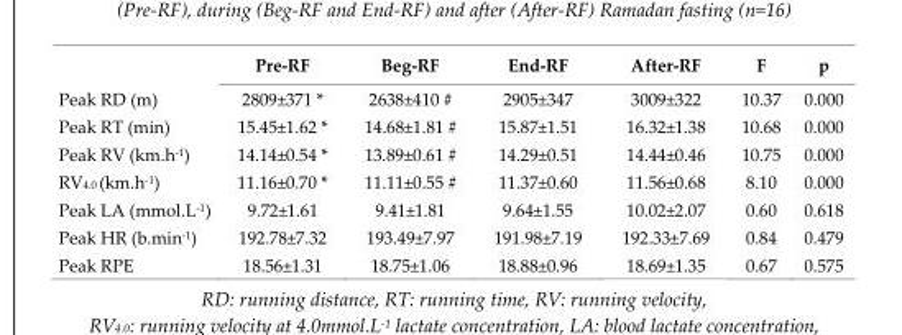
<table><thead><tr><td></td><td>Pre-RF</td><td>Beg-RF</td><td>End-RF</td><td>After-RF</td><td>F</td><td>p</td></tr></thead><tbody><tr><td>Peak RD (m)</td><td>2809±371 *</td><td>2638±410 #</td><td>2905±347</td><td>3009±322</td><td>10.37</td><td>0.000</td></tr><tr><td>Peak RT (min)</td><td>15.45±1.62 *</td><td>14.68±1.81 #</td><td>15.87±1.51</td><td>16.32±1.38</td><td>10.68</td><td>0.000</td></tr><tr><td>Peak RV (km.h<sup>-1</sup>)</td><td>14.14±0.54 *</td><td>13.89±0.61 #</td><td>14.29±0.51</td><td>14.44±0.46</td><td>10.75</td><td>0.000</td></tr><tr><td>RV4.0 (km.h<sup>-1</sup>)</td><td>11.16±0.70 *</td><td>11.11±0.55 #</td><td>11.37±0.60</td><td>11.56±0.68</td><td>8.10</td><td>0.000</td></tr><tr><td>Peak LA (mmol.L<sup>-1</sup>)</td><td>9.72±1.61</td><td>9.41±1.81</td><td>9.64±1.55</td><td>10.02±2.07</td><td>0.60</td><td>0.618</td></tr><tr><td>Peak HR (b.min<sup>-1</sup>)</td><td>192.78±7.32</td><td>193.49±7.97</td><td>191.98±7.19</td><td>192.33±7.69</td><td>0.84</td><td>0.479</td></tr><tr><td>Peak RPE</td><td>18.56±1.31</td><td>18.75±1.06</td><td>18.88±0.96</td><td>18.69±1.35</td><td>0.67</td><td>0.575</td></tr></tbody></table>